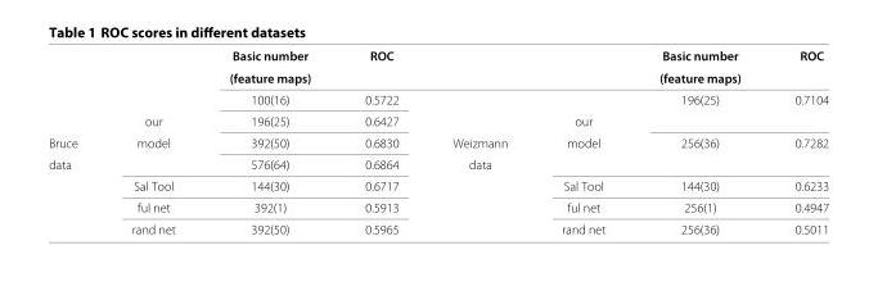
<table><thead><tr><td rowspan="2"></td><td rowspan="2"></td><td rowspan="2">Basic number (feature maps)</td><td rowspan="2">ROC</td><td rowspan="2"></td><td rowspan="2"></td><td rowspan="2">Basic number (feature maps)</td><td rowspan="2">ROC</td></tr><tr></tr></thead><tbody><tr><td></td><td></td><td>100(16)</td><td>0.5722</td><td></td><td></td><td>196(25)</td><td>0.7104</td></tr><tr><td></td><td>our</td><td>196(25)</td><td>0.6427</td><td></td><td>our</td><td></td><td></td></tr><tr><td>Bruce</td><td>model</td><td>392(50)</td><td>0.6830</td><td>Weizmann</td><td>model</td><td>256(36)</td><td>0.7282</td></tr><tr><td rowspan="4">data</td><td></td><td>576(64)</td><td>0.6864</td><td>data</td><td></td><td></td><td></td></tr><tr><td>Sal Tool</td><td>144(30)</td><td>0.6717</td><td></td><td>Sal Tool</td><td>144(30)</td><td>0.6233</td></tr><tr><td>ful net</td><td>392(1)</td><td>0.5913</td><td></td><td>ful net</td><td>256(1)</td><td>0.4947</td></tr><tr><td>rand net</td><td>392(50)</td><td>0.5965</td><td></td><td>rand net</td><td>256(36)</td><td>0.5011</td></tr></tbody></table>